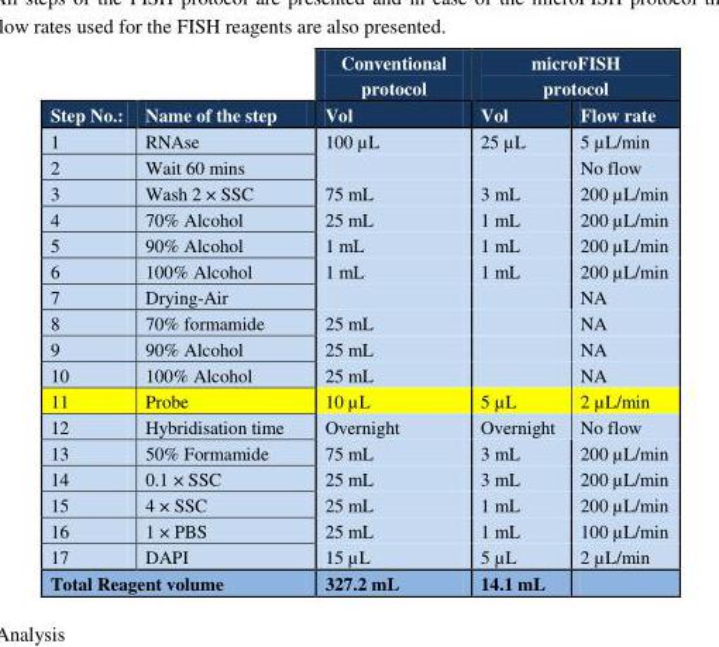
<table><thead><tr><td rowspan="2">Step No.:</td><td rowspan="2">Name of the step</td><td rowspan="2">Conventional protocol Vol</td><td colspan="2">microFISH protocol</td></tr><tr><td>Vol</td><td>Flow rate</td></tr></thead><tbody><tr><td>1</td><td>RNAse</td><td>100 µL</td><td>25 µL</td><td>5 µL/min</td></tr><tr><td>2</td><td>Wait 60 mins</td><td></td><td></td><td>No flow</td></tr><tr><td>3</td><td>Wash 2 × SSC</td><td>75 mL</td><td>3 mL</td><td>200 µL/min</td></tr><tr><td>4</td><td>70% Alcohol</td><td>25 mL</td><td>1 mL</td><td>200 µL/min</td></tr><tr><td>5</td><td>90% Alcohol</td><td>1 mL</td><td>1 mL</td><td>200 µL/min</td></tr><tr><td>6</td><td>100% Alcohol</td><td>1 mL</td><td>1 mL</td><td>200 µL/min</td></tr><tr><td>7</td><td>Drying-Air</td><td></td><td></td><td>NA</td></tr><tr><td>8</td><td>70% formamide</td><td>25 mL</td><td></td><td>NA</td></tr><tr><td>9</td><td>90% Alcohol</td><td>25 mL</td><td></td><td>NA</td></tr><tr><td>10</td><td>100% Alcohol</td><td>25 mL</td><td></td><td>NA</td></tr><tr><td>11</td><td>Probe</td><td>10 µL</td><td>5 µL</td><td>2 µL/min</td></tr><tr><td>12</td><td>Hybridisation time</td><td>Overnight</td><td>Overnight</td><td>No flow</td></tr><tr><td>13</td><td>50% Formamide</td><td>75 mL</td><td>3 mL</td><td>200 µL/min</td></tr><tr><td>14</td><td>0.1 × SSC</td><td>25 mL</td><td>3 mL</td><td>200 µL/min</td></tr><tr><td>15</td><td>4 × SSC</td><td>25 mL</td><td>1 mL</td><td>200 µL/min</td></tr><tr><td>16</td><td>1 × PBS</td><td>25 mL</td><td>1 mL</td><td>100 µL/min</td></tr><tr><td>17</td><td>DAPI</td><td>15 µL</td><td>5 µL</td><td>2 µL/min</td></tr><tr><td colspan="2">Total Reagent volume</td><td>327.2 mL</td><td>14.1 mL</td><td></td></tr></tbody></table>